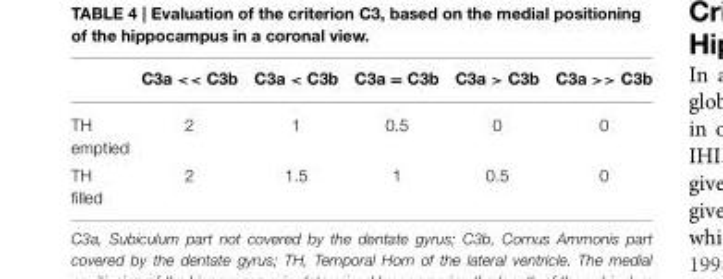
<table><thead><tr><td></td><td>C3a &lt;&lt; C3b</td><td>C3a &lt; C3b</td><td>C3a = C3b</td><td>C3a &gt; C3b</td><td>C3a &gt;&gt; C3b</td></tr></thead><tbody><tr><td>TH emptied</td><td>2</td><td>1</td><td>0.5</td><td>0</td><td>0</td></tr><tr><td>TH filled</td><td>2</td><td>1.5</td><td>1</td><td>0.5</td><td>0</td></tr></tbody></table>